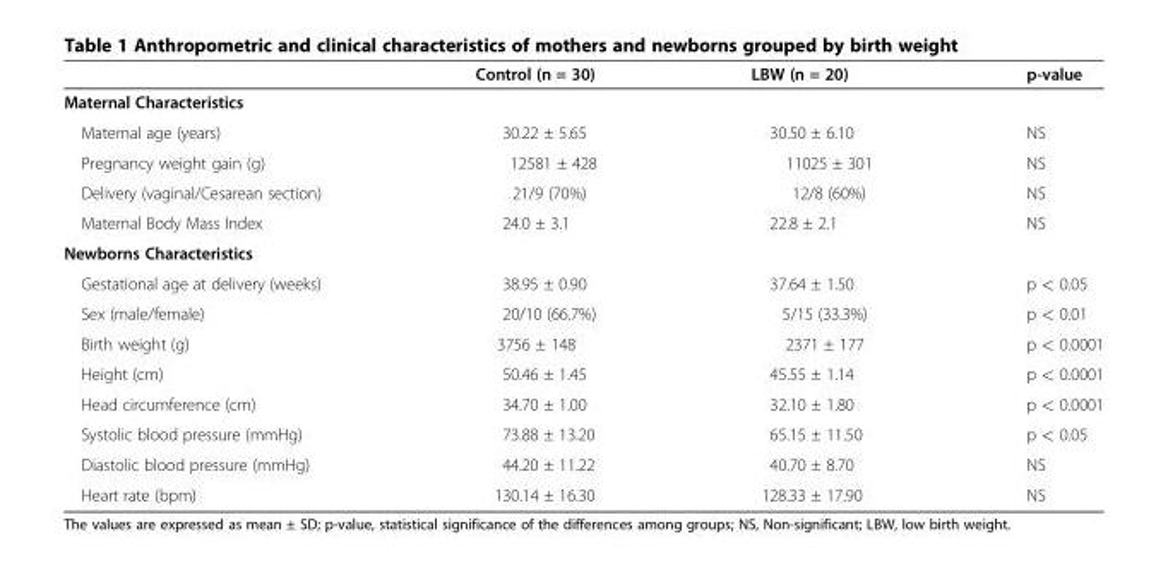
<table><thead><tr><td></td><td>Control (n = 30)</td><td>LBW (n = 20)</td><td>p-value</td></tr></thead><tbody><tr><td colspan="4">Maternal Characteristics</td></tr><tr><td>Maternal age (years)</td><td>30.22 ± 5.65</td><td>30.50 ± 6.10</td><td>NS</td></tr><tr><td>Pregnancy weight gain (g)</td><td>12581 ± 428</td><td>11025 ± 301</td><td>NS</td></tr><tr><td>Delivery (vaginal/Cesarean section)</td><td>21/9 (70%)</td><td>12/8 (60%)</td><td>NS</td></tr><tr><td>Maternal Body Mass Index</td><td>24.0 ± 3.1</td><td>22.8 ± 2.1</td><td>NS</td></tr><tr><td colspan="4">Newborns Characteristics</td></tr><tr><td>Gestational age at delivery (weeks)</td><td>38.95 ± 0.90</td><td>37.64 ± 1.50</td><td>p &lt; 0.05</td></tr><tr><td>Sex (male/female)</td><td>20/10 (66.7%)</td><td>5/15 (33.3%)</td><td>p &lt; 0.01</td></tr><tr><td>Birth weight (g)</td><td>3756 ± 148</td><td>2371 ± 177</td><td>p &lt; 0.0001</td></tr><tr><td>Height (cm)</td><td>50.46 ± 1.45</td><td>45.55 ± 1.14</td><td>p &lt; 0.0001</td></tr><tr><td>Head circumference (cm)</td><td>34.70 ± 1.00</td><td>32.10 ± 1.80</td><td>p &lt; 0.0001</td></tr><tr><td>Systolic blood pressure (mmHg)</td><td>73.88 ± 13.20</td><td>65.15 ± 11.50</td><td>p &lt; 0.05</td></tr><tr><td>Diastolic blood pressure (mmHg)</td><td>44.20 ± 11.22</td><td>40.70 ± 8.70</td><td>NS</td></tr><tr><td>Heart rate (bpm)</td><td>130.14 ± 16.30</td><td>128.33 ± 17.90</td><td>NS</td></tr></tbody></table>